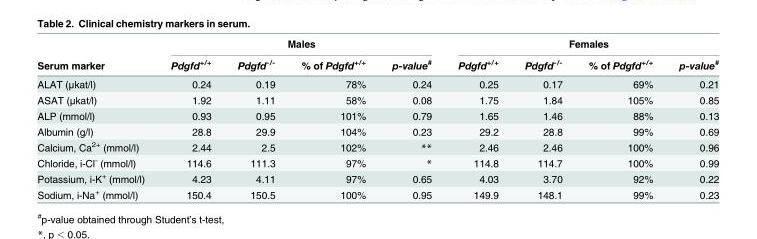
<table><thead><tr><td rowspan="2">Serum marker</td><td colspan="4">Males</td><td colspan="4">Females</td></tr><tr><td>Pdgfd<sup>+/+</sup></td><td>Pdgfd<sup>-/-</sup></td><td>% of Pdgfd<sup>+/+</sup></td><td>p-value<sup>#</sup></td><td>Pdgfd<sup>+/+</sup></td><td>Pdgfd<sup>-/-</sup></td><td>% of Pdgfd<sup>+/+</sup></td><td>p-value<sup>#</sup></td></tr></thead><tbody><tr><td>ALAT (μkat/l)</td><td>0.24</td><td>0.19</td><td>78%</td><td>0.24</td><td>0.25</td><td>0.17</td><td>69%</td><td>0.21</td></tr><tr><td>ASAT (μkat/l)</td><td>1.92</td><td>1.11</td><td>58%</td><td>0.08</td><td>1.75</td><td>1.84</td><td>105%</td><td>0.85</td></tr><tr><td>ALP (mmol/l)</td><td>0.93</td><td>0.95</td><td>101%</td><td>0.79</td><td>1.65</td><td>1.46</td><td>88%</td><td>0.13</td></tr><tr><td>Albumin (g/l)</td><td>28.8</td><td>29.9</td><td>104%</td><td>0.23</td><td>29.2</td><td>28.8</td><td>99%</td><td>0.69</td></tr><tr><td>Calcium, Ca<sup>2+</sup> (mmol/l)</td><td>2.44</td><td>2.5</td><td>102%</td><td>**</td><td>2.46</td><td>2.46</td><td>100%</td><td>0.96</td></tr><tr><td>Chloride, i-Cl<sup>-</sup> (mmol/l)</td><td>114.6</td><td>111.3</td><td>97%</td><td>*</td><td>114.8</td><td>114.7</td><td>100%</td><td>0.99</td></tr><tr><td>Potassium, i-K<sup>+</sup> (mmol/l)</td><td>4.23</td><td>4.11</td><td>97%</td><td>0.65</td><td>4.03</td><td>3.70</td><td>92%</td><td>0.22</td></tr><tr><td>Sodium, i-Na<sup>+</sup> (mmol/l)</td><td>150.4</td><td>150.5</td><td>100%</td><td>0.95</td><td>149.9</td><td>148.1</td><td>99%</td><td>0.23</td></tr></tbody></table>